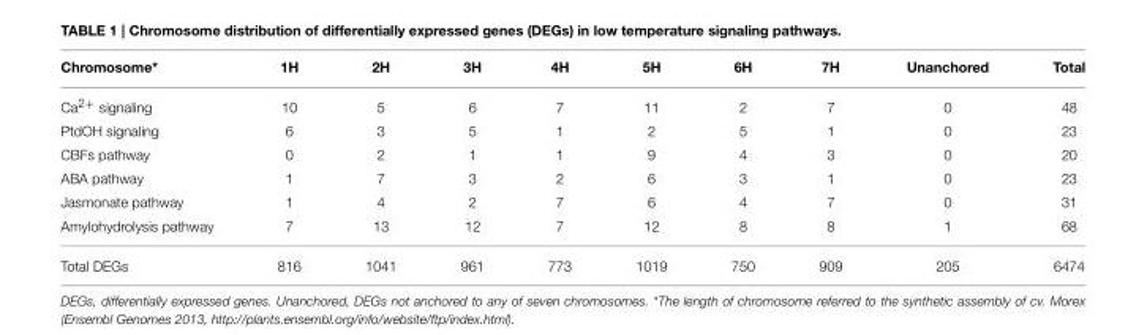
<table><thead><tr><td>Chromosome*</td><td>1H</td><td>2H</td><td>3H</td><td>4H</td><td>5H</td><td>6H</td><td>7H</td><td>Unanchored</td><td>Total</td></tr></thead><tbody><tr><td>Ca<sup>2+</sup> signaling</td><td>10</td><td>5</td><td>6</td><td>7</td><td>11</td><td>2</td><td>7</td><td>0</td><td>48</td></tr><tr><td>PtdOH signaling</td><td>6</td><td>3</td><td>5</td><td>1</td><td>2</td><td>5</td><td>1</td><td>0</td><td>23</td></tr><tr><td>CBFs pathway</td><td>0</td><td>2</td><td>1</td><td>1</td><td>9</td><td>4</td><td>3</td><td>0</td><td>20</td></tr><tr><td>ABA pathway</td><td>1</td><td>7</td><td>3</td><td>2</td><td>6</td><td>3</td><td>1</td><td>0</td><td>23</td></tr><tr><td>Jasmonate pathway</td><td>1</td><td>4</td><td>2</td><td>7</td><td>6</td><td>4</td><td>7</td><td>0</td><td>31</td></tr><tr><td>Amylohydrolysis pathway</td><td>7</td><td>13</td><td>12</td><td>7</td><td>12</td><td>8</td><td>8</td><td>1</td><td>68</td></tr><tr><td>Total DEGs</td><td>816</td><td>1041</td><td>961</td><td>773</td><td>1019</td><td>750</td><td>909</td><td>205</td><td>6474</td></tr></tbody></table>